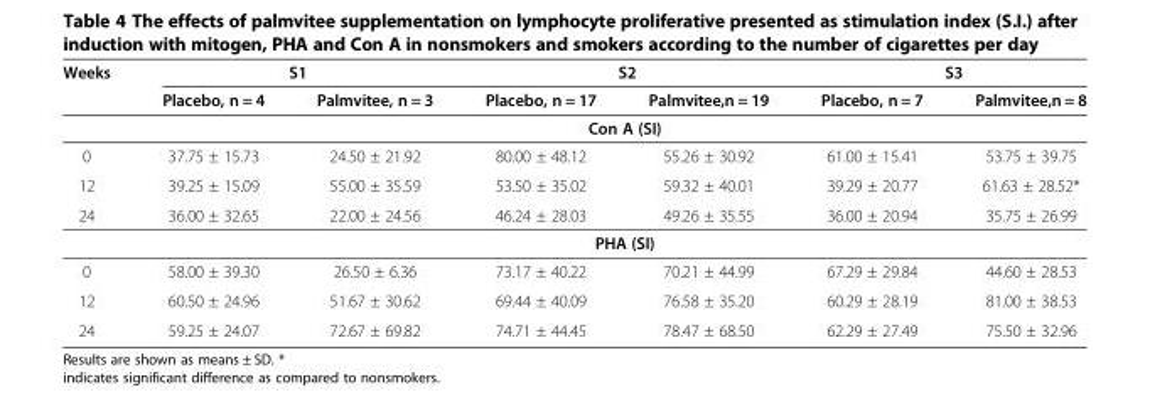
<table><thead><tr><td rowspan="2">Weeks</td><td colspan="2">S1</td><td colspan="2">S2</td><td colspan="2">S3</td></tr><tr><td>Placebo, n = 4</td><td>Palmvitee, n = 3</td><td>Placebo, n = 17</td><td>Palmvitee,n = 19</td><td>Placebo, n = 7</td><td>Palmvitee,n = 8</td></tr></thead><tbody><tr><td></td><td colspan="6">Con A (SI)</td></tr><tr><td>0</td><td>37.75 ± 15.73</td><td>24.50 ± 21.92</td><td>80.00 ± 48.12</td><td>55.26 ± 30.92</td><td>61.00 ± 15.41</td><td>53.75 ± 39.75</td></tr><tr><td>12</td><td>39.25 ± 15.09</td><td>55.00 ± 35.59</td><td>53.50 ± 35.02</td><td>59.32 ± 40.01</td><td>39.29 ± 20.77</td><td>61.63 ± 28.52*</td></tr><tr><td rowspan="2">24</td><td>36.00 ± 32.65</td><td>22.00 ± 24.56</td><td>46.24 ± 28.03</td><td>49.26 ± 35.55</td><td>36.00 ± 20.94</td><td>35.75 ± 26.99</td></tr><tr><td colspan="6">PHA (SI)</td></tr><tr><td>0</td><td>58.00 ± 39.30</td><td>26.50 ± 6.36</td><td>73.17 ± 40.22</td><td>70.21 ± 44.99</td><td>67.29 ± 29.84</td><td>44.60 ± 28.53</td></tr><tr><td>12</td><td>60.50 ± 24.96</td><td>51.67 ± 30.62</td><td>69.44 ± 40.09</td><td>76.58 ± 35.20</td><td>60.29 ± 28.19</td><td>81.00 ± 38.53</td></tr><tr><td>24</td><td>59.25 ± 24.07</td><td>72.67 ± 69.82</td><td>74.71 ± 44.45</td><td>78.47 ± 68.50</td><td>62.29 ± 27.49</td><td>75.50 ± 32.96</td></tr></tbody></table>